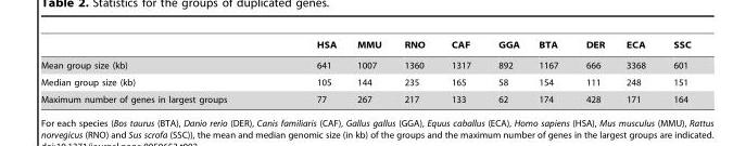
<table><thead><tr><td></td><td>HSA</td><td>MMU</td><td>RNO</td><td>CAF</td><td>GGA</td><td>BTA</td><td>DER</td><td>ECA</td><td>SSC</td></tr></thead><tbody><tr><td>Mean group size (kb)</td><td>641</td><td>1007</td><td>1360</td><td>1317</td><td>892</td><td>1167</td><td>666</td><td>3368</td><td>601</td></tr><tr><td>Median group size (kb)</td><td>105</td><td>144</td><td>235</td><td>165</td><td>58</td><td>154</td><td>111</td><td>248</td><td>151</td></tr><tr><td>Maximum number of genes in largest groups</td><td>77</td><td>267</td><td>217</td><td>133</td><td>62</td><td>174</td><td>428</td><td>171</td><td>164</td></tr></tbody></table>